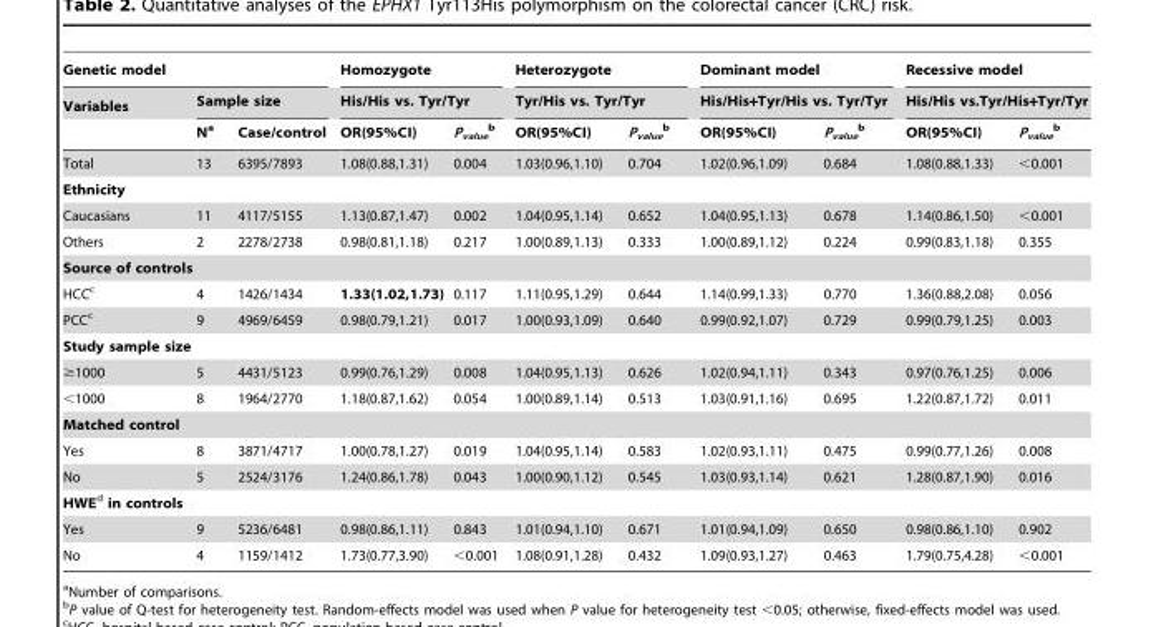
<table><thead><tr><td colspan="3">Genetic model</td><td rowspan="2" colspan="2">Homozygote His/His vs. Tyr/Tyr</td><td rowspan="2" colspan="2">Heterozygote Tyr/His vs. Tyr/Tyr</td><td rowspan="2" colspan="2">Dominant model His/His+Tyr/His vs. Tyr/Tyr</td><td rowspan="2" colspan="2">Recessive model His/His vs.Tyr/His+Tyr/Tyr</td></tr><tr><td rowspan="2">Variables</td><td colspan="2">Sample size</td></tr><tr><td>N<sup>a</sup></td><td>Case/control</td><td>OR(95%CI)</td><td>P<sub>value</sub> b</td><td>OR(95%CI)</td><td>P<sub>value</sub> b</td><td>OR(95%CI)</td><td>P<sub>value</sub> b</td><td>OR(95%CI)</td><td>P<sub>value</sub> b</td></tr></thead><tbody><tr><td>Total</td><td>13</td><td>6395/7893</td><td>1.08(0.88,1.31)</td><td>0.004</td><td>1.03(0.96,1.10)</td><td>0.704</td><td>1.02(0.96,1.09)</td><td>0.684</td><td>1.08(0.88,1.33)</td><td>&lt;0.001</td></tr><tr><td colspan="11">Ethnicity</td></tr><tr><td>Caucasians</td><td>11</td><td>4117/5155</td><td>1.13(0.87,1.47)</td><td>0.002</td><td>1.04(0.95,1.14)</td><td>0.652</td><td>1.04(0.95,1.13)</td><td>0.678</td><td>1.14(0.86,1.50)</td><td>&lt;0.001</td></tr><tr><td>Others</td><td>2</td><td>2278/2738</td><td>0.98(0.81,1.18)</td><td>0.217</td><td>1.00(0.89,1.13)</td><td>0.333</td><td>1.00(0.89,1.12)</td><td>0.224</td><td>0.99(0.83,1.18)</td><td>0.355</td></tr><tr><td colspan="11">Source of controls</td></tr><tr><td>HCC<sup>c</sup></td><td>4</td><td>1426/1434</td><td>1.33(1.02,1.73)</td><td>0.117</td><td>1.11(0.95,1.29)</td><td>0.644</td><td>1.14(0.99,1.33)</td><td>0.770</td><td>1.36(0.88,2.08)</td><td>0.056</td></tr><tr><td>PCC<sup>c</sup></td><td>9</td><td>4969/6459</td><td>0.98(0.79,1.21)</td><td>0.017</td><td>1.00(0.93,1.09)</td><td>0.640</td><td>0.99(0.92,1.07)</td><td>0.729</td><td>0.99(0.79,1.25)</td><td>0.003</td></tr><tr><td colspan="11">Study sample size</td></tr><tr><td>≥1000</td><td>5</td><td>4431/5123</td><td>0.99(0.76,1.29)</td><td>0.008</td><td>1.04(0.95,1.13)</td><td>0.626</td><td>1.02(0.94,1.11)</td><td>0.343</td><td>0.97(0.76,1.25)</td><td>0.006</td></tr><tr><td>&lt;1000</td><td>8</td><td>1964/2770</td><td>1.18(0.87,1.62)</td><td>0.054</td><td>1.00(0.89,1.14)</td><td>0.513</td><td>1.03(0.91,1.16)</td><td>0.695</td><td>1.22(0.87,1.72)</td><td>0.011</td></tr><tr><td colspan="11">Matched control</td></tr><tr><td>Yes</td><td>8</td><td>3871/4717</td><td>1.00(0.78,1.27)</td><td>0.019</td><td>1.04(0.95,1.14)</td><td>0.583</td><td>1.02(0.93,1.11)</td><td>0.475</td><td>0.99(0.77,1.26)</td><td>0.008</td></tr><tr><td>No</td><td>5</td><td>2524/3176</td><td>1.24(0.86,1.78)</td><td>0.043</td><td>1.00(0.90,1.12)</td><td>0.545</td><td>1.03(0.93,1.14)</td><td>0.621</td><td>1.28(0.87,1.90)</td><td>0.016</td></tr><tr><td colspan="11">HWEd in controls</td></tr><tr><td>Yes</td><td>9</td><td>5236/6481</td><td>0.98(0.86,1.11)</td><td>0.843</td><td>1.01(0.94,1.10)</td><td>0.671</td><td>1.01(0.94,1.09)</td><td>0.650</td><td>0.98(0.86,1.10)</td><td>0.902</td></tr><tr><td>No</td><td>4</td><td>1159/1412</td><td>1.73(0.77,3.90)</td><td>&lt;0.001</td><td>1.08(0.91,1.28)</td><td>0.432</td><td>1.09(0.93,1.27)</td><td>0.463</td><td>1.79(0.75,4.28)</td><td>&lt;0.001</td></tr></tbody></table>